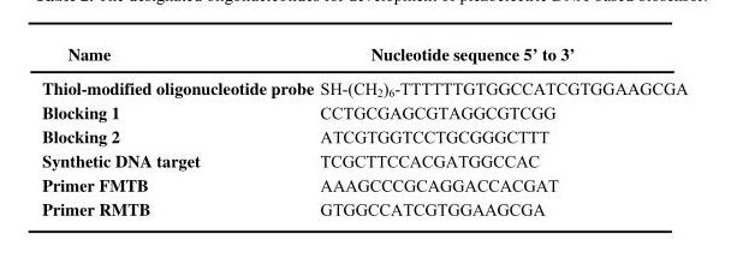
<table><thead><tr><td>Name</td><td>Nucleotide sequence 5’ to 3’</td></tr></thead><tbody><tr><td>Thiol-modified oligonucleotide probe</td><td>SH-(CH<sub>2</sub>)<sub>6</sub>-TTTTTTGTGGCCATCGTGGAAGCGA</td></tr><tr><td>Blocking 1</td><td>CCTGCGAGCGTAGGCGTCGG</td></tr><tr><td>Blocking 2</td><td>ATCGTGGTCCTGCGGGCTTT</td></tr><tr><td>Synthetic DNA target</td><td>TCGCTTCCACGATGGCCAC</td></tr><tr><td>Primer FMTB</td><td>AAAGCCCGCAGGACCACGAT</td></tr><tr><td>Primer RMTB</td><td>GTGGCCATCGTGGAAGCGA</td></tr></tbody></table>